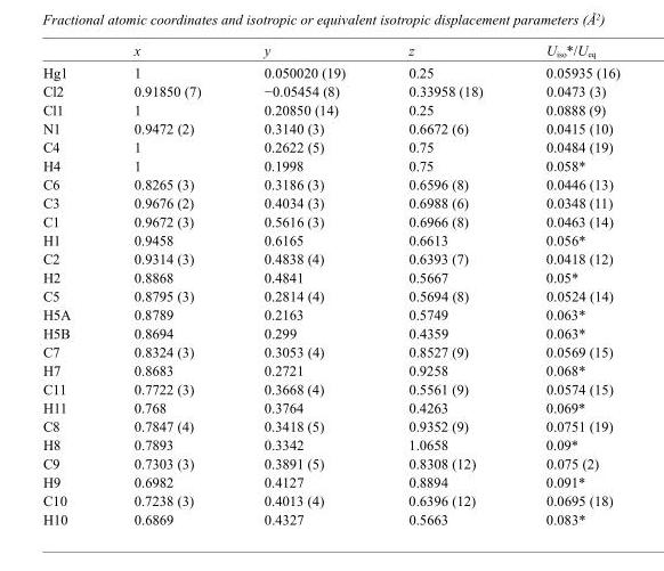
<table><thead><tr><td></td><td>x</td><td>y</td><td>z</td><td>U<sub>iso</sub>*/U<sub>eq</sub></td></tr></thead><tbody><tr><td>Hg1</td><td>1</td><td>0.050020 (19)</td><td>0.25</td><td>0.05935 (16)</td></tr><tr><td>Cl2</td><td>0.91850 (7)</td><td>−0.05454 (8)</td><td>0.33958 (18)</td><td>0.0473 (3)</td></tr><tr><td>Cl1</td><td>1</td><td>0.20850 (14)</td><td>0.25</td><td>0.0888 (9)</td></tr><tr><td>N1</td><td>0.9472 (2)</td><td>0.3140 (3)</td><td>0.6672 (6)</td><td>0.0415 (10)</td></tr><tr><td>C4</td><td>1</td><td>0.2622 (5)</td><td>0.75</td><td>0.0484 (19)</td></tr><tr><td>H4</td><td>1</td><td>0.1998</td><td>0.75</td><td>0.058*</td></tr><tr><td>C6</td><td>0.8265 (3)</td><td>0.3186 (3)</td><td>0.6596 (8)</td><td>0.0446 (13)</td></tr><tr><td>C3</td><td>0.9676 (2)</td><td>0.4034 (3)</td><td>0.6988 (6)</td><td>0.0348 (11)</td></tr><tr><td>C1</td><td>0.9672 (3)</td><td>0.5616 (3)</td><td>0.6966 (8)</td><td>0.0463 (14)</td></tr><tr><td>H1</td><td>0.9458</td><td>0.6165</td><td>0.6613</td><td>0.056*</td></tr><tr><td>C2</td><td>0.9314 (3)</td><td>0.4838 (4)</td><td>0.6393 (7)</td><td>0.0418 (12)</td></tr><tr><td>H2</td><td>0.8868</td><td>0.4841</td><td>0.5667</td><td>0.05*</td></tr><tr><td>C5</td><td>0.8795 (3)</td><td>0.2814 (4)</td><td>0.5694 (8)</td><td>0.0524 (14)</td></tr><tr><td>H5A</td><td>0.8789</td><td>0.2163</td><td>0.5749</td><td>0.063*</td></tr><tr><td>H5B</td><td>0.8694</td><td>0.299</td><td>0.4359</td><td>0.063*</td></tr><tr><td>C7</td><td>0.8324 (3)</td><td>0.3053 (4)</td><td>0.8527 (9)</td><td>0.0569 (15)</td></tr><tr><td>H7</td><td>0.8683</td><td>0.2721</td><td>0.9258</td><td>0.068*</td></tr><tr><td>C11</td><td>0.7722 (3)</td><td>0.3668 (4)</td><td>0.5561 (9)</td><td>0.0574 (15)</td></tr><tr><td>H11</td><td>0.768</td><td>0.3764</td><td>0.4263</td><td>0.069*</td></tr><tr><td>C8</td><td>0.7847 (4)</td><td>0.3418 (5)</td><td>0.9352 (9)</td><td>0.0751 (19)</td></tr><tr><td>H8</td><td>0.7893</td><td>0.3342</td><td>1.0658</td><td>0.09*</td></tr><tr><td>C9</td><td>0.7303 (3)</td><td>0.3891 (5)</td><td>0.8308 (12)</td><td>0.075 (2)</td></tr><tr><td>H9</td><td>0.6982</td><td>0.4127</td><td>0.8894</td><td>0.091*</td></tr><tr><td>C10</td><td>0.7238 (3)</td><td>0.4013 (4)</td><td>0.6396 (12)</td><td>0.0695 (18)</td></tr><tr><td>H10</td><td>0.6869</td><td>0.4327</td><td>0.5663</td><td>0.083*</td></tr></tbody></table>